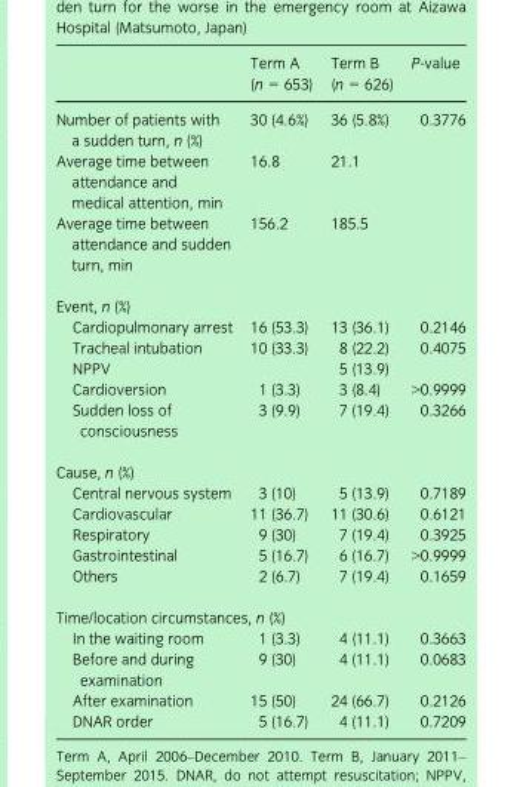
<table><thead><tr><td rowspan="2"></td><td rowspan="2">Term A (n = 653)</td><td rowspan="2">Term B (n = 626)</td><td rowspan="2">P-value</td></tr><tr></tr></thead><tbody><tr><td>Number of patients with a sudden turn, n (%)</td><td>30 (4.6%)</td><td>36 (5.8%)</td><td>0.3776</td></tr><tr><td>Average time between attendance and medical attention, min</td><td>16.8</td><td>21.1</td><td></td></tr><tr><td>Average time between attendance and sudden turn, min</td><td>156.2</td><td>185.5</td><td></td></tr><tr><td colspan="4">Event, n (%)</td></tr><tr><td>Cardiopulmonary arrest</td><td>16 (53.3)</td><td>13 (36.1)</td><td>0.2146</td></tr><tr><td>Tracheal intubation</td><td>10 (33.3)</td><td>8 (22.2)</td><td>0.4075</td></tr><tr><td>NPPV</td><td></td><td>5 (13.9)</td><td></td></tr><tr><td>Cardioversion</td><td>1 (3.3)</td><td>3 (8.4)</td><td>&gt;0.9999</td></tr><tr><td>Sudden loss of consciousness</td><td>3 (9.9)</td><td>7 (19.4)</td><td>0.3266</td></tr><tr><td colspan="4">Cause, n (%)</td></tr><tr><td>Central nervous system</td><td>3 (10)</td><td>5 (13.9)</td><td>0.7189</td></tr><tr><td>Cardiovascular</td><td>11 (36.7)</td><td>11 (30.6)</td><td>0.6121</td></tr><tr><td>Respiratory</td><td>9 (30)</td><td>7 (19.4)</td><td>0.3925</td></tr><tr><td>Gastrointestinal</td><td>5 (16.7)</td><td>6 (16.7)</td><td>&gt;0.9999</td></tr><tr><td>Others</td><td>2 (6.7)</td><td>7 (19.4)</td><td>0.1659</td></tr><tr><td colspan="4">Time/location circumstances, n (%)</td></tr><tr><td>In the waiting room</td><td>1 (3.3)</td><td>4 (11.1)</td><td>0.3663</td></tr><tr><td>Before and during examination</td><td>9 (30)</td><td>4 (11.1)</td><td>0.0683</td></tr><tr><td>After examination</td><td>15 (50)</td><td>24 (66.7)</td><td>0.2126</td></tr><tr><td>DNAR order</td><td>5 (16.7)</td><td>4 (11.1)</td><td>0.7209</td></tr></tbody></table>